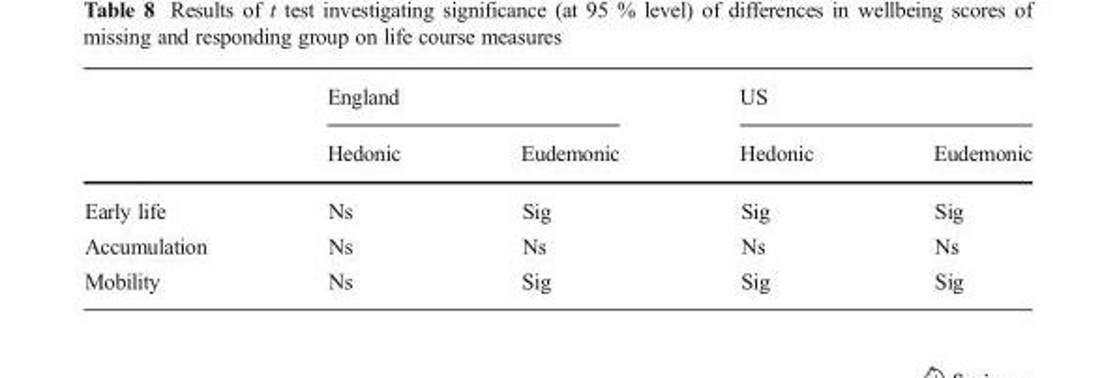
<table><thead><tr><td rowspan="2"></td><td colspan="2">England</td><td colspan="2">US</td></tr><tr><td>Hedonic</td><td>Eudemonic</td><td>Hedonic</td><td>Eudemonic</td></tr></thead><tbody><tr><td>Early life</td><td>Ns</td><td>Sig</td><td>Sig</td><td>Sig</td></tr><tr><td>Accumulation</td><td>Ns</td><td>Ns</td><td>Ns</td><td>Ns</td></tr><tr><td>Mobility</td><td>Ns</td><td>Sig</td><td>Sig</td><td>Sig</td></tr></tbody></table>